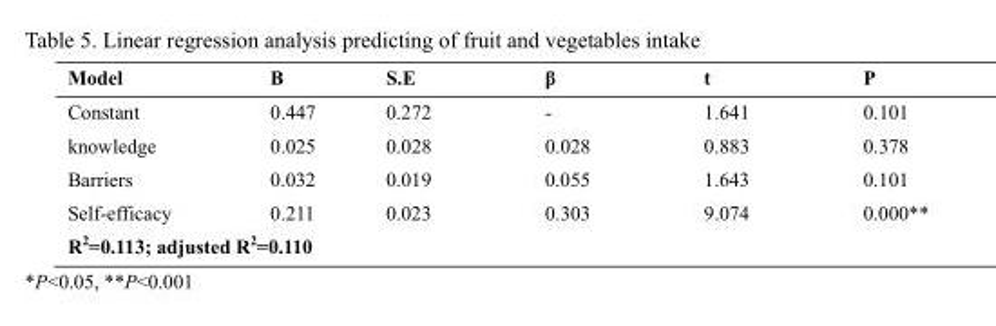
<table><thead><tr><td>Model</td><td>B</td><td>S.E</td><td>β</td><td>t</td><td>P</td></tr></thead><tbody><tr><td>Constant</td><td>0.447</td><td>0.272</td><td>-</td><td>1.641</td><td>0.101</td></tr><tr><td>knowledge</td><td>0.025</td><td>0.028</td><td>0.028</td><td>0.883</td><td>0.378</td></tr><tr><td>Barriers</td><td>0.032</td><td>0.019</td><td>0.055</td><td>1.643</td><td>0.101</td></tr><tr><td>Self-efficacy</td><td>0.211</td><td>0.023</td><td>0.303</td><td>9.074</td><td>0.000**</td></tr><tr><td colspan="6">R<sup>2</sup>=0.113; adjusted R<sup>2</sup>=0.110</td></tr></tbody></table>